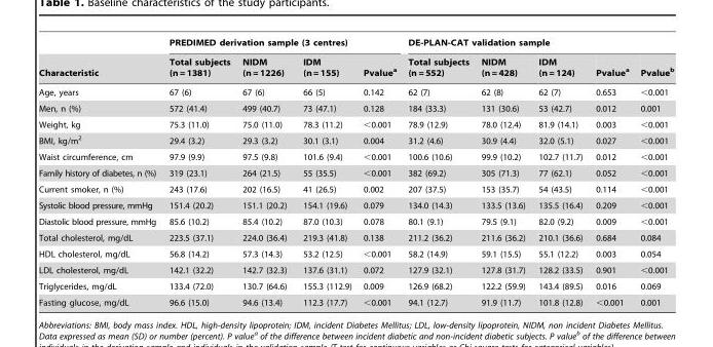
<table><thead><tr><td rowspan="2">Characteristic</td><td colspan="4">PREDIMED derivation sample (3 centres)</td><td colspan="5">DE-PLAN-CAT validation sample</td></tr><tr><td>Total subjects (n = 1381)</td><td>NIDM (n = 1226)</td><td>IDM (n = 155)</td><td>Pvalue<sup>a</sup></td><td>Total subjects (n = 552)</td><td>NIDM (n = 428)</td><td>IDM (n = 124)</td><td>Pvalue<sup>a</sup></td><td>Pvalue<sup>b</sup></td></tr></thead><tbody><tr><td>Age, years</td><td>67 (6)</td><td>67 (6)</td><td>66 (5)</td><td>0.142</td><td>62 (7)</td><td>62 (8)</td><td>62 (7)</td><td>0.653</td><td>&lt;0.001</td></tr><tr><td>Men, n (%)</td><td>572 (41.4)</td><td>499 (40.7)</td><td>73 (47.1)</td><td>0.128</td><td>184 (33.3)</td><td>131 (30.6)</td><td>53 (42.7)</td><td>0.012</td><td>0.001</td></tr><tr><td>Weight, kg</td><td>75.3 (11.0)</td><td>75.0 (11.0)</td><td>78.3 (11.2)</td><td>&lt;0.001</td><td>78.9 (12.9)</td><td>78.0 (12.4)</td><td>81.9 (14.1)</td><td>0.003</td><td>&lt;0.001</td></tr><tr><td>BMI, kg/m<sup>2</sup></td><td>29.4 (3.2)</td><td>29.3 (3.2)</td><td>30.1 (3.1)</td><td>0.004</td><td>31.2 (4.6)</td><td>30.9 (4.4)</td><td>32.0 (5.1)</td><td>0.027</td><td>&lt;0.001</td></tr><tr><td>Waist circumference, cm</td><td>97.9 (9.9)</td><td>97.5 (9.8)</td><td>101.6 (9.4)</td><td>&lt;0.001</td><td>100.6 (10.6)</td><td>99.9 (10.2)</td><td>102.7 (11.7)</td><td>0.012</td><td>&lt;0.001</td></tr><tr><td>Family history of diabetes, n (%)</td><td>319 (23.1)</td><td>264 (21.5)</td><td>55 (35.5)</td><td>&lt;0.001</td><td>382 (69.2)</td><td>305 (71.3)</td><td>77 (62.1)</td><td>0.052</td><td>&lt;0.001</td></tr><tr><td>Current smoker, n (%)</td><td>243 (17.6)</td><td>202 (16.5)</td><td>41 (26.5)</td><td>0.002</td><td>207 (37.5)</td><td>153 (35.7)</td><td>54 (43.5)</td><td>0.114</td><td>&lt;0.001</td></tr><tr><td>Systolic blood pressure, mmHg</td><td>151.4 (20.2)</td><td>151.1 (20.2)</td><td>154.1 (19.6)</td><td>0.079</td><td>134.0 (14.3)</td><td>133.5 (13.6)</td><td>135.5 (16.4)</td><td>0.209</td><td>&lt;0.001</td></tr><tr><td>Diastolic blood pressure, mmHg</td><td>85.6 (10.2)</td><td>85.4 (10.2)</td><td>87.0 (10.3)</td><td>0.078</td><td>80.1 (9.1)</td><td>79.5 (9.1)</td><td>82.0 (9.2)</td><td>0.009</td><td>&lt;0.001</td></tr><tr><td>Total cholesterol, mg/dL</td><td>223.5 (37.1)</td><td>224.0 (36.4)</td><td>219.3 (41.8)</td><td>0.138</td><td>211.2 (36.2)</td><td>211.6 (36.2)</td><td>210.1 (36.6)</td><td>0.684</td><td>0.084</td></tr><tr><td>HDL cholesterol, mg/dL</td><td>56.8 (14.2)</td><td>57.3 (14.3)</td><td>53.2 (12.5)</td><td>&lt;0.001</td><td>58.2 (14.9)</td><td>59.1 (15.5)</td><td>55.1 (12.2)</td><td>0.003</td><td>0.054</td></tr><tr><td>LDL cholesterol, mg/dL</td><td>142.1 (32.2)</td><td>142.7 (32.3)</td><td>137.6 (31.1)</td><td>0.072</td><td>127.9 (32.1)</td><td>127.8 (31.7)</td><td>128.2 (33.5)</td><td>0.901</td><td>&lt;0.001</td></tr><tr><td>Triglycerides, mg/dL</td><td>133.4 (72.0)</td><td>130.7 (64.6)</td><td>155.3 (112.9)</td><td>0.009</td><td>126.9 (68.2)</td><td>122.2 (59.9)</td><td>143.4 (89.5)</td><td>0.016</td><td>0.069</td></tr><tr><td>Fasting glucose, mg/dL</td><td>96.6 (15.0)</td><td>94.6 (13.4)</td><td>112.3 (17.7)</td><td>&lt;0.001</td><td>94.1 (12.7)</td><td>91.9 (11.7)</td><td>101.8 (12.8)</td><td>&lt;0.001</td><td>0.001</td></tr></tbody></table>